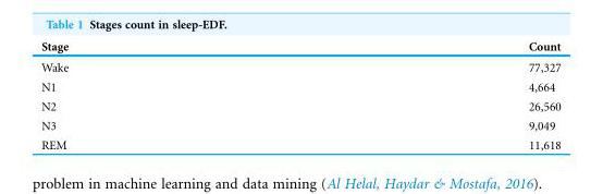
<table><thead><tr><td>Stage</td><td>Count</td></tr></thead><tbody><tr><td>Wake</td><td>77,327</td></tr><tr><td>N1</td><td>4,664</td></tr><tr><td>N2</td><td>26,560</td></tr><tr><td>N3</td><td>9,049</td></tr><tr><td>REM</td><td>11,618</td></tr></tbody></table>